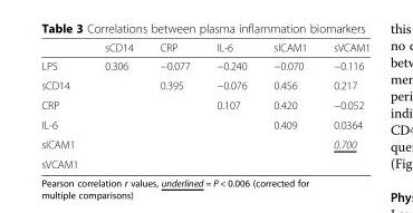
<table><thead><tr><td></td><td>sCD14</td><td>CRP</td><td>IL-6</td><td>sICAM1</td><td>sVCAM1</td></tr></thead><tbody><tr><td>LPS</td><td>0.306</td><td>−0.077</td><td>−0.240</td><td>−0.070</td><td>−0.116</td></tr><tr><td>sCD14</td><td></td><td>0.395</td><td>−0.076</td><td>0.456</td><td>0.217</td></tr><tr><td>CRP</td><td></td><td></td><td>0.107</td><td>0.420</td><td>−0.052</td></tr><tr><td>IL-6</td><td></td><td></td><td></td><td>0.409</td><td>0.0364</td></tr><tr><td>sICAM1</td><td></td><td></td><td></td><td></td><td>0.700</td></tr><tr><td>sVCAM1</td><td></td><td></td><td></td><td></td><td></td></tr></tbody></table>